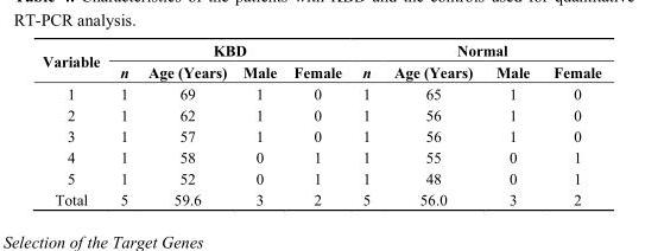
<table><thead><tr><td rowspan="2">Variable</td><td colspan="4">KBD</td><td colspan="4">Normal</td></tr><tr><td>n</td><td>Age (Years)</td><td>Male</td><td>Female</td><td>n</td><td>Age (Years)</td><td>Male</td><td>Female</td></tr></thead><tbody><tr><td>1</td><td>1</td><td>69</td><td>1</td><td>0</td><td>1</td><td>65</td><td>1</td><td>0</td></tr><tr><td>2</td><td>1</td><td>62</td><td>1</td><td>0</td><td>1</td><td>56</td><td>1</td><td>0</td></tr><tr><td>3</td><td>1</td><td>57</td><td>1</td><td>0</td><td>1</td><td>56</td><td>1</td><td>0</td></tr><tr><td>4</td><td>1</td><td>58</td><td>0</td><td>1</td><td>1</td><td>55</td><td>0</td><td>1</td></tr><tr><td>5</td><td>1</td><td>52</td><td>0</td><td>1</td><td>1</td><td>48</td><td>0</td><td>1</td></tr><tr><td>Total</td><td>5</td><td>59.6</td><td>3</td><td>2</td><td>5</td><td>56.0</td><td>3</td><td>2</td></tr></tbody></table>